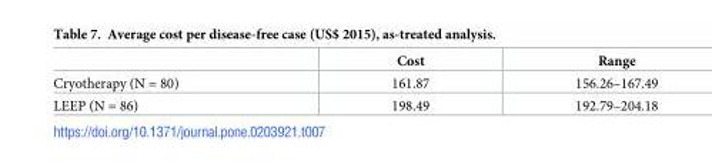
<table><thead><tr><td></td><td>Cost</td><td>Range</td></tr></thead><tbody><tr><td>Cryotherapy (N = 80)</td><td>161.87</td><td>156.26–167.49</td></tr><tr><td>LEEP (N = 86)</td><td>198.49</td><td>192.79–204.18</td></tr></tbody></table>